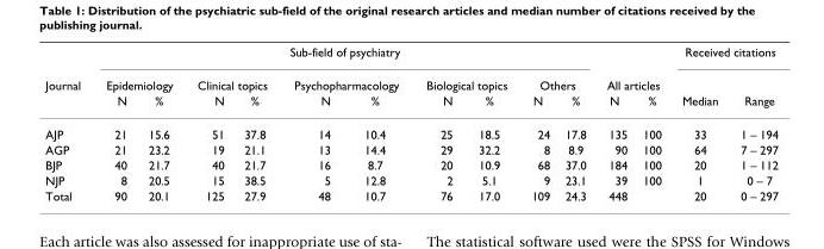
<table><thead><tr><td rowspan="3">Journal</td><td colspan="10">Sub-field of psychiatry</td><td></td><td></td><td colspan="2">Received citations</td></tr><tr><td colspan="2">Epidemiology</td><td colspan="2">Clinical topics</td><td colspan="2">Psychopharmacology</td><td colspan="2">Biological topics</td><td colspan="2">Others</td><td colspan="2">All articles</td><td rowspan="2">Median</td><td rowspan="2">Range</td></tr><tr><td>N</td><td>%</td><td>N</td><td>%</td><td>N</td><td>%</td><td>N</td><td>%</td><td>N</td><td>%</td><td>N</td><td>%</td></tr></thead><tbody><tr><td>AJP</td><td>21</td><td>15.6</td><td>51</td><td>37.8</td><td>14</td><td>10.4</td><td>25</td><td>18.5</td><td>24</td><td>17.8</td><td>135</td><td>100</td><td>33</td><td>1 – 194</td></tr><tr><td>AGP</td><td>21</td><td>23.2</td><td>19</td><td>21.1</td><td>13</td><td>14.4</td><td>29</td><td>32.2</td><td>8</td><td>8.9</td><td>90</td><td>100</td><td>64</td><td>7 – 297</td></tr><tr><td>BJP</td><td>40</td><td>21.7</td><td>40</td><td>21.7</td><td>16</td><td>8.7</td><td>20</td><td>10.9</td><td>68</td><td>37.0</td><td>184</td><td>100</td><td>20</td><td>1 – 112</td></tr><tr><td>NJP</td><td>8</td><td>20.5</td><td>15</td><td>38.5</td><td>5</td><td>12.8</td><td>2</td><td>5.1</td><td>9</td><td>23.1</td><td>39</td><td>100</td><td>1</td><td>0 – 7</td></tr><tr><td>Total</td><td>90</td><td>20.1</td><td>125</td><td>27.9</td><td>48</td><td>10.7</td><td>76</td><td>17.0</td><td>109</td><td>24.3</td><td>448</td><td></td><td>20</td><td>0 – 297</td></tr></tbody></table>